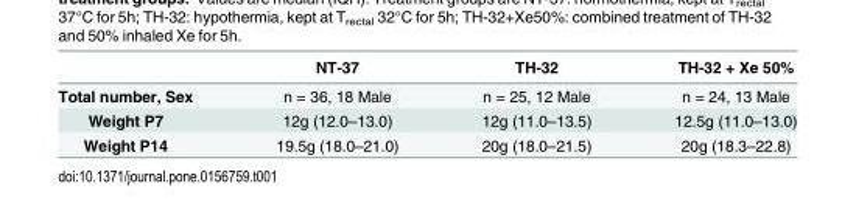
<table><thead><tr><td></td><td>NT-37</td><td>TH-32</td><td>TH-32 + Xe 50%</td></tr></thead><tbody><tr><td>Total number, Sex</td><td>n = 36, 18 Male</td><td>n = 25, 12 Male</td><td>n = 24, 13 Male</td></tr><tr><td>Weight P7</td><td>12g (12.0–13.0)</td><td>12g (11.0–13.5)</td><td>12.5g (11.0–13.0)</td></tr><tr><td>Weight P14</td><td>19.5g (18.0–21.0)</td><td>20g (18.0–21.5)</td><td>20g (18.3–22.8)</td></tr></tbody></table>